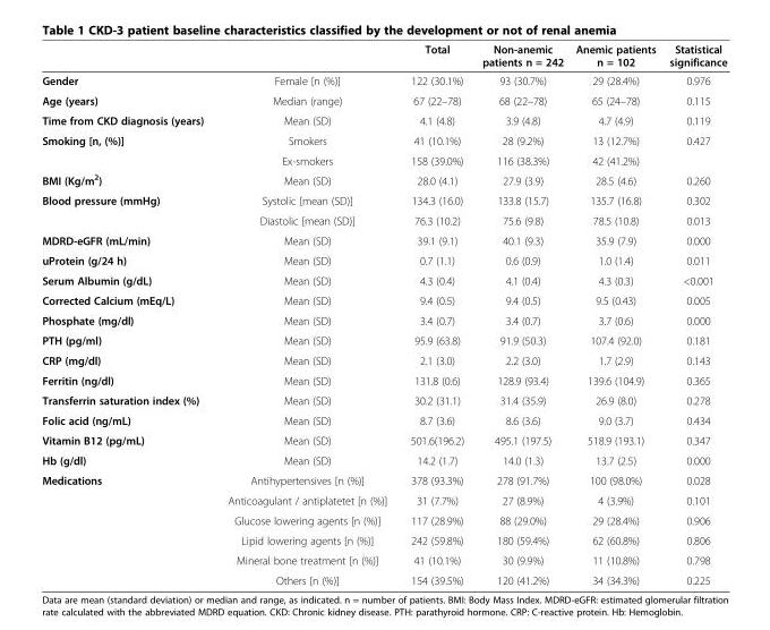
<table><thead><tr><td></td><td></td><td>Total</td><td>Non-anemic patients n = 242</td><td>Anemic patients n = 102</td><td>Statistical significance</td></tr></thead><tbody><tr><td>Gender</td><td>Female [n (%)]</td><td>122 (30.1%)</td><td>93 (30.7%)</td><td>29 (28.4%)</td><td>0.976</td></tr><tr><td>Age (years)</td><td>Median (range)</td><td>67 (22–78)</td><td>68 (22–78)</td><td>65 (24–78)</td><td>0.115</td></tr><tr><td>Time from CKD diagnosis (years)</td><td>Mean (SD)</td><td>4.1 (4.8)</td><td>3.9 (4.8)</td><td>4.7 (4.9)</td><td>0.119</td></tr><tr><td rowspan="2">Smoking [n, (%)]</td><td>Smokers</td><td>41 (10.1%)</td><td>28 (9.2%)</td><td>13 (12.7%)</td><td rowspan="2">0.427</td></tr><tr><td>Ex-smokers</td><td>158 (39.0%)</td><td>116 (38.3%)</td><td>42 (41.2%)</td></tr><tr><td>BMI (Kg/m<sup>2</sup>)</td><td>Mean (SD)</td><td>28.0 (4.1)</td><td>27.9 (3.9)</td><td>28.5 (4.6)</td><td>0.260</td></tr><tr><td rowspan="2">Blood pressure (mmHg)</td><td>Systolic [mean (SD)]</td><td>134.3 (16.0)</td><td>133.8 (15.7)</td><td>135.7 (16.8)</td><td>0.302</td></tr><tr><td>Diastolic [mean (SD)]</td><td>76.3 (10.2)</td><td>75.6 (9.8)</td><td>78.5 (10.8)</td><td>0.013</td></tr><tr><td>MDRD-eGFR (mL/min)</td><td>Mean (SD)</td><td>39.1 (9.1)</td><td>40.1 (9.3)</td><td>35.9 (7.9)</td><td>0.000</td></tr><tr><td>uProtein (g/24 h)</td><td>Mean (SD)</td><td>0.7 (1.1)</td><td>0.6 (0.9)</td><td>1.0 (1.4)</td><td>0.011</td></tr><tr><td>Serum Albumin (g/dL)</td><td>Mean (SD)</td><td>4.3 (0.4)</td><td>4.1 (0.4)</td><td>4.3 (0.3)</td><td>&lt;0.001</td></tr><tr><td>Corrected Calcium (mEq/L)</td><td>Mean (SD)</td><td>9.4 (0.5)</td><td>9.4 (0.5)</td><td>9.5 (0.43)</td><td>0.005</td></tr><tr><td>Phosphate (mg/dl)</td><td>Mean (SD)</td><td>3.4 (0.7)</td><td>3.4 (0.7)</td><td>3.7 (0.6)</td><td>0.000</td></tr><tr><td>PTH (pg/ml)</td><td>Mean (SD)</td><td>95.9 (63.8)</td><td>91.9 (50.3)</td><td>107.4 (92.0)</td><td>0.181</td></tr><tr><td>CRP (mg/dl)</td><td>Mean (SD)</td><td>2.1 (3.0)</td><td>2.2 (3.0)</td><td>1.7 (2.9)</td><td>0.143</td></tr><tr><td>Ferritin (ng/dl)</td><td>Mean (SD)</td><td>131.8 (0.6)</td><td>128.9 (93.4)</td><td>139.6 (104.9)</td><td>0.365</td></tr><tr><td>Transferrin saturation index (%)</td><td>Mean (SD)</td><td>30.2 (31.1)</td><td>31.4 (35.9)</td><td>26.9 (8.0)</td><td>0.278</td></tr><tr><td>Folic acid (ng/mL)</td><td>Mean (SD)</td><td>8.7 (3.6)</td><td>8.6 (3.6)</td><td>9.0 (3.7)</td><td>0.434</td></tr><tr><td>Vitamin B12 (pg/mL)</td><td>Mean (SD)</td><td>501.6(196.2)</td><td>495.1 (197.5)</td><td>518.9 (193.1)</td><td>0.347</td></tr><tr><td>Hb (g/dl)</td><td>Mean (SD)</td><td>14.2 (1.7)</td><td>14.0 (1.3)</td><td>13.7 (2.5)</td><td>0.000</td></tr><tr><td rowspan="6">Medications</td><td>Antihypertensives [n (%)]</td><td>378 (93.3%)</td><td>278 (91.7%)</td><td>100 (98.0%)</td><td>0.028</td></tr><tr><td>Anticoagulant / antiplatetet [n (%)]</td><td>31 (7.7%)</td><td>27 (8.9%)</td><td>4 (3.9%)</td><td>0.101</td></tr><tr><td>Glucose lowering agents [n (%)]</td><td>117 (28.9%)</td><td>88 (29.0%)</td><td>29 (28.4%)</td><td>0.906</td></tr><tr><td>Lipid lowering agents [n (%)]</td><td>242 (59.8%)</td><td>180 (59.4%)</td><td>62 (60.8%)</td><td>0.806</td></tr><tr><td>Mineral bone treatment [n (%)]</td><td>41 (10.1%)</td><td>30 (9.9%)</td><td>11 (10.8%)</td><td>0.798</td></tr><tr><td>Others [n (%)]</td><td>154 (39.5%)</td><td>120 (41.2%)</td><td>34 (34.3%)</td><td>0.225</td></tr></tbody></table>